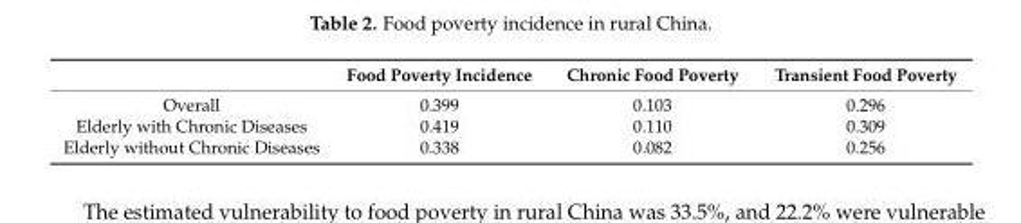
<table><thead><tr><td></td><td>Food Poverty Incidence</td><td>Chronic Food Poverty</td><td>Transient Food Poverty</td></tr></thead><tbody><tr><td>Overall</td><td>0.399</td><td>0.103</td><td>0.296</td></tr><tr><td>Elderly with Chronic Diseases</td><td>0.419</td><td>0.110</td><td>0.309</td></tr><tr><td>Elderly without Chronic Diseases</td><td>0.338</td><td>0.082</td><td>0.256</td></tr></tbody></table>